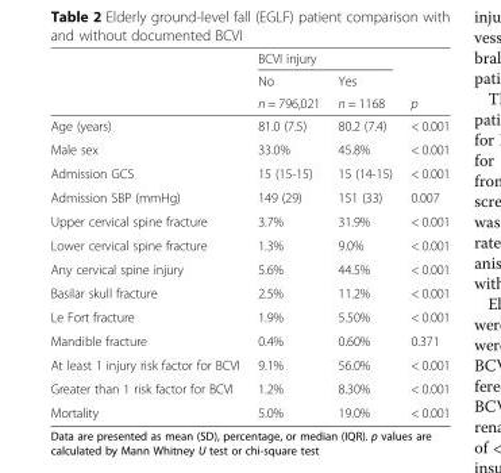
<table><thead><tr><td rowspan="3"></td><td colspan="2">BCVI injury</td><td rowspan="3">p</td></tr><tr><td rowspan="2">No n = 796,021</td><td rowspan="2">Yes n = 1168</td></tr><tr></tr></thead><tbody><tr><td>Age (years)</td><td>81.0 (7.5)</td><td>80.2 (7.4)</td><td>&lt; 0.001</td></tr><tr><td>Male sex</td><td>33.0%</td><td>45.8%</td><td>&lt; 0.001</td></tr><tr><td>Admission GCS</td><td>15 (15-15)</td><td>15 (14-15)</td><td>&lt; 0.001</td></tr><tr><td>Admission SBP (mmHg)</td><td>149 (29)</td><td>151 (33)</td><td>0.007</td></tr><tr><td>Upper cervical spine fracture</td><td>3.7%</td><td>31.9%</td><td>&lt; 0.001</td></tr><tr><td>Lower cervical spine fracture</td><td>1.3%</td><td>9.0%</td><td>&lt; 0.001</td></tr><tr><td>Any cervical spine injury</td><td>5.6%</td><td>44.5%</td><td>&lt; 0.001</td></tr><tr><td>Basilar skull fracture</td><td>2.5%</td><td>11.2%</td><td>&lt; 0.001</td></tr><tr><td>Le Fort fracture</td><td>1.9%</td><td>5.50%</td><td>&lt; 0.001</td></tr><tr><td>Mandible fracture</td><td>0.4%</td><td>0.60%</td><td>0.371</td></tr><tr><td>At least 1 injury risk factor for BCVI</td><td>9.1%</td><td>56.0%</td><td>&lt; 0.001</td></tr><tr><td>Greater than 1 risk factor for BCVI</td><td>1.2%</td><td>8.30%</td><td>&lt; 0.001</td></tr><tr><td>Mortality</td><td>5.0%</td><td>19.0%</td><td>&lt; 0.001</td></tr></tbody></table>